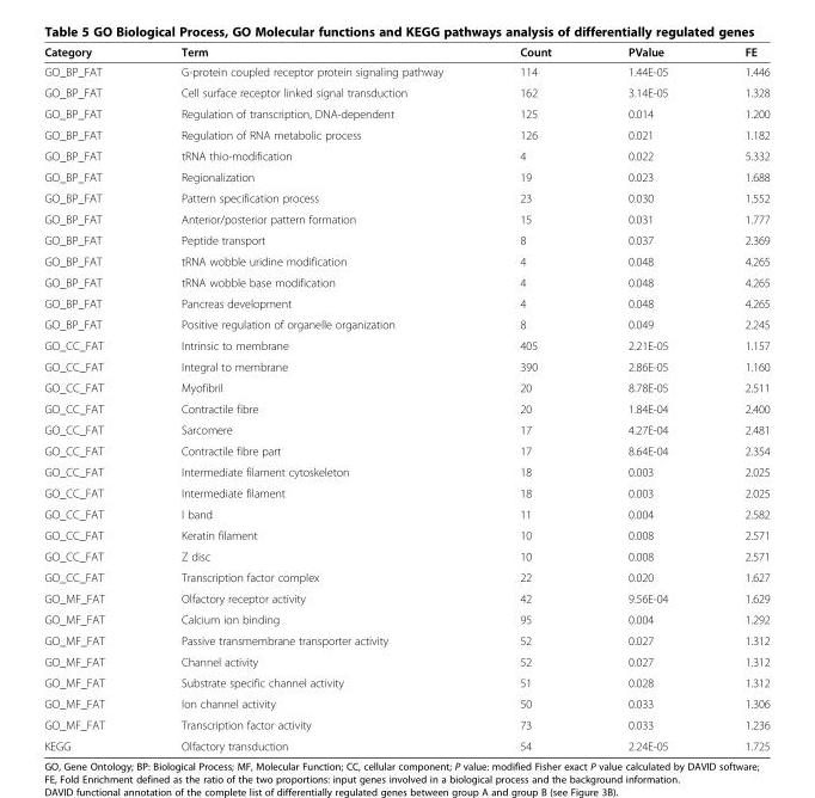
<table><thead><tr><td>Category</td><td>Term</td><td>Count</td><td>PValue</td><td>FE</td></tr></thead><tbody><tr><td>GO_BP_FAT</td><td>G-protein coupled receptor protein signaling pathway</td><td>114</td><td>1.44E-05</td><td>1.446</td></tr><tr><td>GO_BP_FAT</td><td>Cell surface receptor linked signal transduction</td><td>162</td><td>3.14E-05</td><td>1.328</td></tr><tr><td>GO_BP_FAT</td><td>Regulation of transcription, DNA-dependent</td><td>125</td><td>0.014</td><td>1.200</td></tr><tr><td>GO_BP_FAT</td><td>Regulation of RNA metabolic process</td><td>126</td><td>0.021</td><td>1.182</td></tr><tr><td>GO_BP_FAT</td><td>tRNA thio-modification</td><td>4</td><td>0.022</td><td>5.332</td></tr><tr><td>GO_BP_FAT</td><td>Regionalization</td><td>19</td><td>0.023</td><td>1.688</td></tr><tr><td>GO_BP_FAT</td><td>Pattern specification process</td><td>23</td><td>0.030</td><td>1.552</td></tr><tr><td>GO_BP_FAT</td><td>Anterior/posterior pattern formation</td><td>15</td><td>0.031</td><td>1.777</td></tr><tr><td>GO_BP_FAT</td><td>Peptide transport</td><td>8</td><td>0.037</td><td>2.369</td></tr><tr><td>GO_BP_FAT</td><td>tRNA wobble uridine modification</td><td>4</td><td>0.048</td><td>4.265</td></tr><tr><td>GO_BP_FAT</td><td>tRNA wobble base modification</td><td>4</td><td>0.048</td><td>4.265</td></tr><tr><td>GO_BP_FAT</td><td>Pancreas development</td><td>4</td><td>0.048</td><td>4.265</td></tr><tr><td>GO_BP_FAT</td><td>Positive regulation of organelle organization</td><td>8</td><td>0.049</td><td>2.245</td></tr><tr><td>GO_CC_FAT</td><td>Intrinsic to membrane</td><td>405</td><td>2.21E-05</td><td>1.157</td></tr><tr><td>GO_CC_FAT</td><td>Integral to membrane</td><td>390</td><td>2.86E-05</td><td>1.160</td></tr><tr><td>GO_CC_FAT</td><td>Myofibril</td><td>20</td><td>8.78E-05</td><td>2.511</td></tr><tr><td>GO_CC_FAT</td><td>Contractile fibre</td><td>20</td><td>1.84E-04</td><td>2.400</td></tr><tr><td>GO_CC_FAT</td><td>Sarcomere</td><td>17</td><td>4.27E-04</td><td>2.481</td></tr><tr><td>GO_CC_FAT</td><td>Contractile fibre part</td><td>17</td><td>8.64E-04</td><td>2.354</td></tr><tr><td>GO_CC_FAT</td><td>Intermediate filament cytoskeleton</td><td>18</td><td>0.003</td><td>2.025</td></tr><tr><td>GO_CC_FAT</td><td>Intermediate filament</td><td>18</td><td>0.003</td><td>2.025</td></tr><tr><td>GO_CC_FAT</td><td>I band</td><td>11</td><td>0.004</td><td>2.582</td></tr><tr><td>GO_CC_FAT</td><td>Keratin filament</td><td>10</td><td>0.008</td><td>2.571</td></tr><tr><td>GO_CC_FAT</td><td>Z disc</td><td>10</td><td>0.008</td><td>2.571</td></tr><tr><td>GO_CC_FAT</td><td>Transcription factor complex</td><td>22</td><td>0.020</td><td>1.627</td></tr><tr><td>GO_MF_FAT</td><td>Olfactory receptor activity</td><td>42</td><td>9.56E-04</td><td>1.629</td></tr><tr><td>GO_MF_FAT</td><td>Calcium ion binding</td><td>95</td><td>0.004</td><td>1.292</td></tr><tr><td>GO_MF_FAT</td><td>Passive transmembrane transporter activity</td><td>52</td><td>0.027</td><td>1.312</td></tr><tr><td>GO_MF_FAT</td><td>Channel activity</td><td>52</td><td>0.027</td><td>1.312</td></tr><tr><td>GO_MF_FAT</td><td>Substrate specific channel activity</td><td>51</td><td>0.028</td><td>1.312</td></tr><tr><td>GO_MF_FAT</td><td>Ion channel activity</td><td>50</td><td>0.033</td><td>1.306</td></tr><tr><td>GO_MF_FAT</td><td>Transcription factor activity</td><td>73</td><td>0.033</td><td>1.236</td></tr><tr><td>KEGG</td><td>Olfactory transduction</td><td>54</td><td>2.24E-05</td><td>1.725</td></tr></tbody></table>